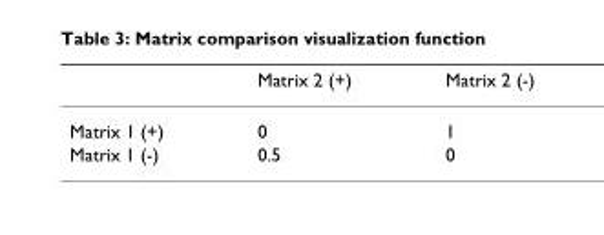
<table><thead><tr><td></td><td>Matrix 2 (+)</td><td>Matrix 2 (-)</td></tr></thead><tbody><tr><td>Matrix 1 (+)</td><td>0</td><td>1</td></tr><tr><td>Matrix 1 (-)</td><td>0.5</td><td>0</td></tr></tbody></table>